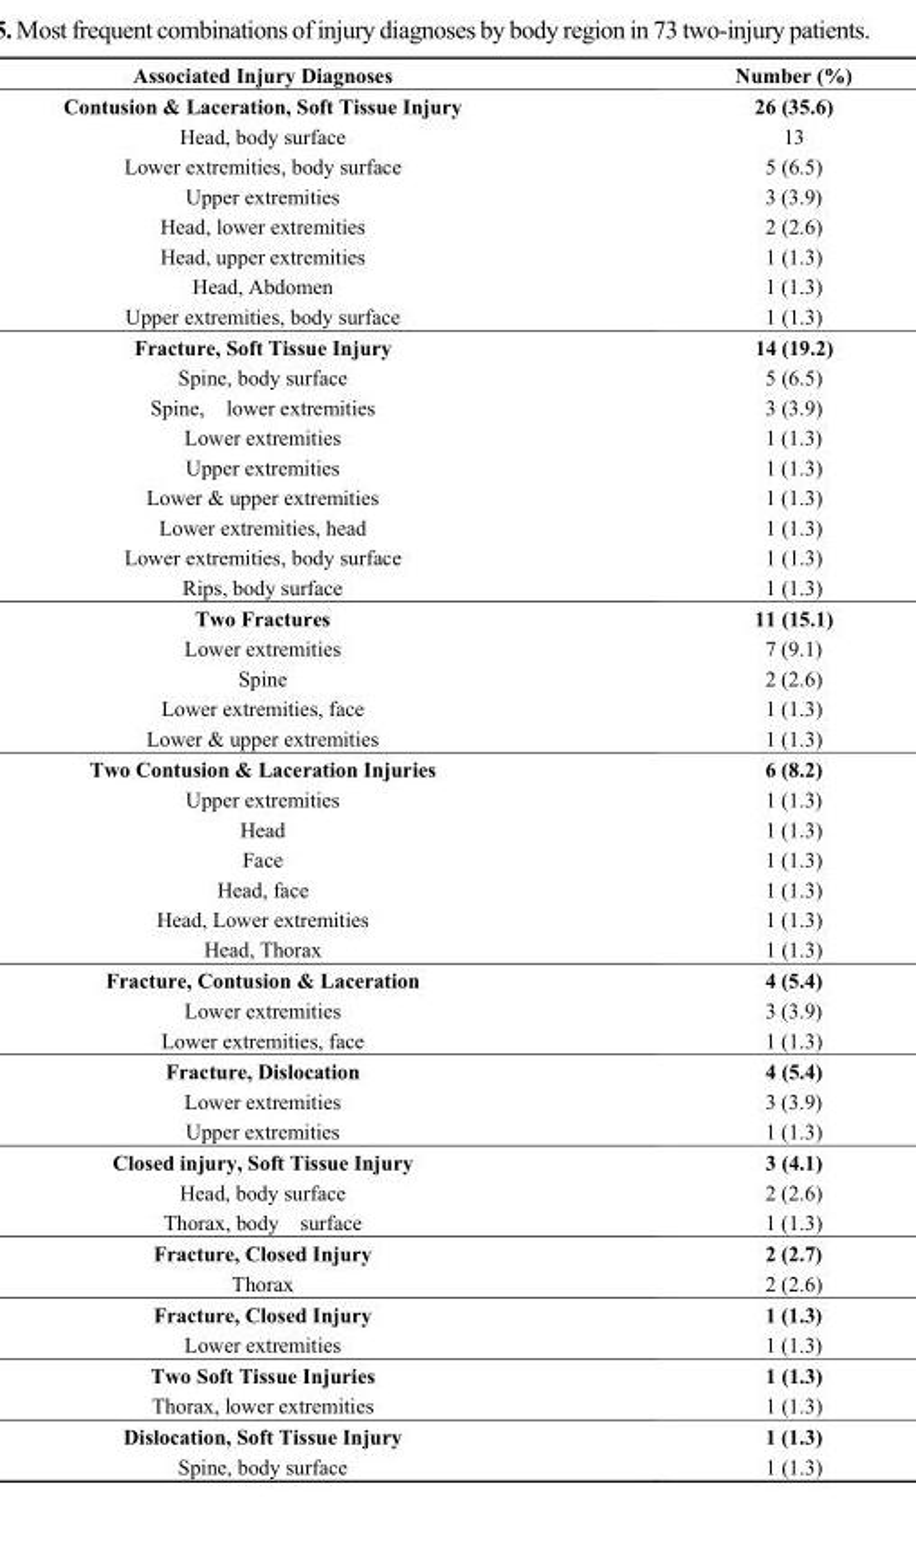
<table><thead><tr><td>Associated Injury Diagnoses</td><td>Number (%)</td></tr></thead><tbody><tr><td>Contusion &amp; Laceration, Soft Tissue Injury</td><td>26 (35.6)</td></tr><tr><td>Head, body surface</td><td>13</td></tr><tr><td>Lower extremities, body surface</td><td>5 (6.5)</td></tr><tr><td>Upper extremities</td><td>3 (3.9)</td></tr><tr><td>Head, lower extremities</td><td>2 (2.6)</td></tr><tr><td>Head, upper extremities</td><td>1 (1.3)</td></tr><tr><td>Head, Abdomen</td><td>1 (1.3)</td></tr><tr><td>Upper extremities, body surface</td><td>1 (1.3)</td></tr><tr><td>Fracture, Soft Tissue Injury</td><td>14 (19.2)</td></tr><tr><td>Spine, body surface</td><td>5 (6.5)</td></tr><tr><td>Spine, lower extremities</td><td>3 (3.9)</td></tr><tr><td>Lower extremities</td><td>1 (1.3)</td></tr><tr><td>Upper extremities</td><td>1 (1.3)</td></tr><tr><td>Lower &amp; upper extremities</td><td>1 (1.3)</td></tr><tr><td>Lower extremities, head</td><td>1 (1.3)</td></tr><tr><td>Lower extremities, body surface</td><td>1 (1.3)</td></tr><tr><td>Rips, body surface</td><td>1 (1.3)</td></tr><tr><td>Two Fractures</td><td>11 (15.1)</td></tr><tr><td>Lower extremities</td><td>7 (9.1)</td></tr><tr><td>Spine</td><td>2 (2.6)</td></tr><tr><td>Lower extremities, face</td><td>1 (1.3)</td></tr><tr><td>Lower &amp; upper extremities</td><td>1 (1.3)</td></tr><tr><td>Two Contusion &amp; Laceration Injuries</td><td>6 (8.2)</td></tr><tr><td>Upper extremities</td><td>1 (1.3)</td></tr><tr><td>Head</td><td>1 (1.3)</td></tr><tr><td>Face</td><td>1 (1.3)</td></tr><tr><td>Head, face</td><td>1 (1.3)</td></tr><tr><td>Head, Lower extremities</td><td>1 (1.3)</td></tr><tr><td>Head, Thorax</td><td>1 (1.3)</td></tr><tr><td>Fracture, Contusion &amp; Laceration</td><td>4 (5.4)</td></tr><tr><td>Lower extremities</td><td>3 (3.9)</td></tr><tr><td>Lower extremities, face</td><td>1 (1.3)</td></tr><tr><td>Fracture, Dislocation</td><td>4 (5.4)</td></tr><tr><td>Lower extremities</td><td>3 (3.9)</td></tr><tr><td>Upper extremities</td><td>1 (1.3)</td></tr><tr><td>Closed injury, Soft Tissue Injury</td><td>3 (4.1)</td></tr><tr><td>Head, body surface</td><td>2 (2.6)</td></tr><tr><td>Thorax, body surface</td><td>1 (1.3)</td></tr><tr><td>Fracture, Closed Injury</td><td>2 (2.7)</td></tr><tr><td>Thorax</td><td>2 (2.6)</td></tr><tr><td>Fracture, Closed Injury</td><td>1 (1.3)</td></tr><tr><td>Lower extremities</td><td>1 (1.3)</td></tr><tr><td>Two Soft Tissue Injuries</td><td>1 (1.3)</td></tr><tr><td>Thorax, lower extremities</td><td>1 (1.3)</td></tr><tr><td>Dislocation, Soft Tissue Injury</td><td>1 (1.3)</td></tr><tr><td>Spine, body surface</td><td>1 (1.3)</td></tr></tbody></table>